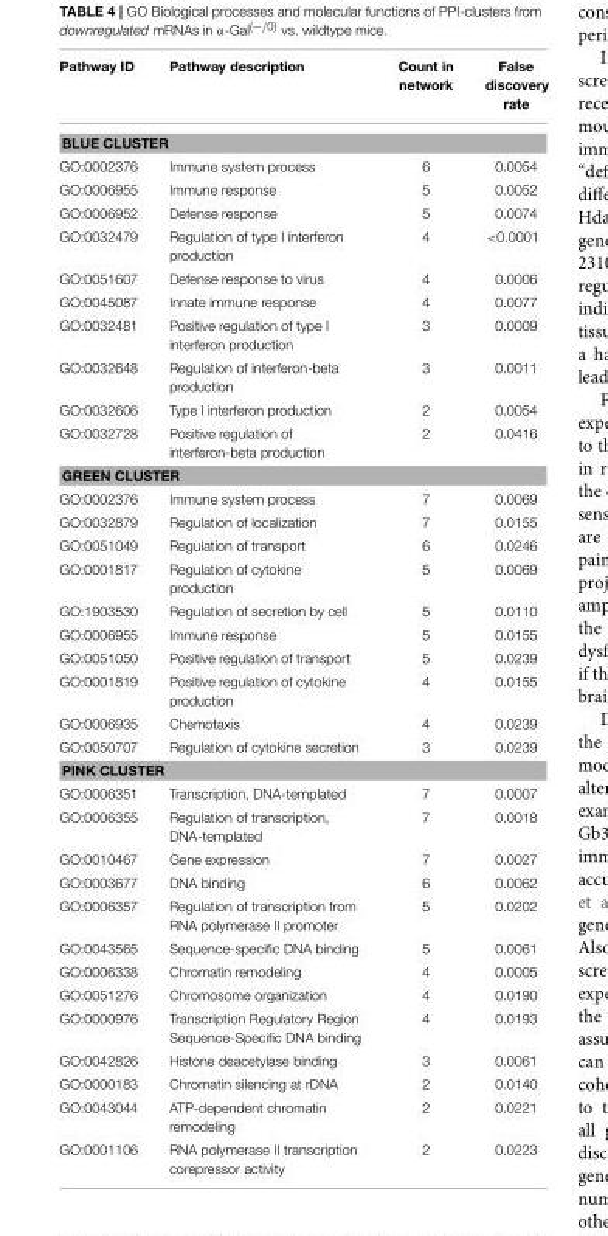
<table><thead><tr><td>Pathway ID</td><td>Pathway description</td><td>Count in network</td><td>False discovery rate</td></tr></thead><tbody><tr><td colspan="4">BLUE CLUSTER</td></tr><tr><td>GO:0002376</td><td>Immune system process</td><td>6</td><td>0.0054</td></tr><tr><td>GO:0006955</td><td>Immune response</td><td>5</td><td>0.0052</td></tr><tr><td>GO:0006952</td><td>Defense response</td><td>5</td><td>0.0074</td></tr><tr><td>GO:0032479</td><td>Regulation of type I interferon production</td><td>4</td><td>&lt;0.0001</td></tr><tr><td>GO:0051607</td><td>Defense response to virus</td><td>4</td><td>0.0006</td></tr><tr><td>GO:0045087</td><td>Innate immune response</td><td>4</td><td>0.0077</td></tr><tr><td>GO:0032481</td><td>Positive regulation of type I interferon production</td><td>3</td><td>0.0009</td></tr><tr><td>GO:0032648</td><td>Regulation of interferon-beta production</td><td>3</td><td>0.0011</td></tr><tr><td>GO:0032606</td><td>Type I interferon production</td><td>2</td><td>0.0054</td></tr><tr><td>GO:0032728</td><td>Positive regulation of interferon-beta production</td><td>2</td><td>0.0416</td></tr><tr><td colspan="4">GREEN CLUSTER</td></tr><tr><td>GO:0002376</td><td>Immune system process</td><td>7</td><td>0.0069</td></tr><tr><td>GO:0032879</td><td>Regulation of localization</td><td>7</td><td>0.0155</td></tr><tr><td>GO:0051049</td><td>Regulation of transport</td><td>6</td><td>0.0246</td></tr><tr><td>GO:0001817</td><td>Regulation of cytokine production</td><td>5</td><td>0.0069</td></tr><tr><td>GO:1903530</td><td>Regulation of secretion by cell</td><td>5</td><td>0.0110</td></tr><tr><td>GO:0006955</td><td>Immune response</td><td>5</td><td>0.0155</td></tr><tr><td>GO:0051050</td><td>Positive regulation of transport</td><td>5</td><td>0.0239</td></tr><tr><td>GO:0001819</td><td>Positive regulation of cytokine production</td><td>4</td><td>0.0155</td></tr><tr><td>GO:0006935</td><td>Chemotaxis</td><td>4</td><td>0.0239</td></tr><tr><td>GO:0050707</td><td>Regulation of cytokine secretion</td><td>3</td><td>0.0239</td></tr><tr><td colspan="4">PINK CLUSTER</td></tr><tr><td>GO:0006351</td><td>Transcription, DNA-templated</td><td>7</td><td>0.0007</td></tr><tr><td>GO:0006355</td><td>Regulation of transcription, DNA-templated</td><td>7</td><td>0.0018</td></tr><tr><td>GO:0010467</td><td>Gene expression</td><td>7</td><td>0.0027</td></tr><tr><td>GO:0003677</td><td>DNA binding</td><td>6</td><td>0.0062</td></tr><tr><td>GO:0006357</td><td>Regulation of transcription from RNA polymerase II promoter</td><td>5</td><td>0.0202</td></tr><tr><td>GO:0043565</td><td>Sequence-specific DNA binding</td><td>5</td><td>0.0061</td></tr><tr><td>GO:0006338</td><td>Chromatin remodeling</td><td>4</td><td>0.0005</td></tr><tr><td>GO:0051276</td><td>Chromosome organization</td><td>4</td><td>0.0190</td></tr><tr><td>GO:0000976</td><td>Transcription Regulatory Region Sequence-Specific DNA binding</td><td>4</td><td>0.0193</td></tr><tr><td>GO:0042826</td><td>Histone deacetylase binding</td><td>3</td><td>0.0061</td></tr><tr><td>GO:0000183</td><td>Chromatin silencing at rDNA</td><td>2</td><td>0.0140</td></tr><tr><td>GO:0043044</td><td>ATP-dependent chromatin remodeling</td><td>2</td><td>0.0221</td></tr><tr><td>GO:0001106</td><td>RNA polymerase II transcription corepressor activity</td><td>2</td><td>0.0223</td></tr></tbody></table>